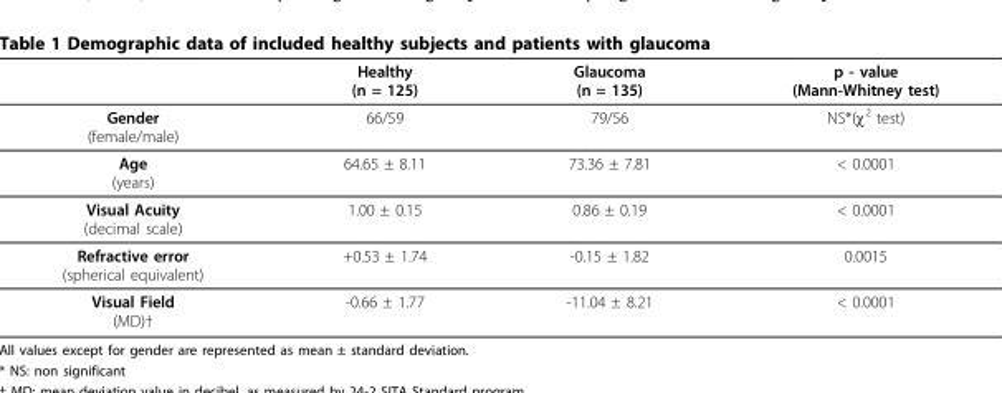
<table><thead><tr><td></td><td>Healthy (n = 125)</td><td>Glaucoma (n = 135)</td><td>p - value (Mann-Whitney test)</td></tr></thead><tbody><tr><td>Gender (female/male)</td><td>66/59</td><td>79/56</td><td>NS*(χ<sup>2</sup> test)</td></tr><tr><td>Age (years)</td><td>64.65 ± 8.11</td><td>73.36 ± 7.81</td><td>&lt; 0.0001</td></tr><tr><td>Visual Acuity (decimal scale)</td><td>1.00 ± 0.15</td><td>0.86 ± 0.19</td><td>&lt; 0.0001</td></tr><tr><td>Refractive error (spherical equivalent)</td><td>+0.53 ± 1.74</td><td>-0.15 ± 1.82</td><td>0.0015</td></tr><tr><td>Visual Field (MD)†</td><td>-0.66 ± 1.77</td><td>-11.04 ± 8.21</td><td>&lt; 0.0001</td></tr></tbody></table>